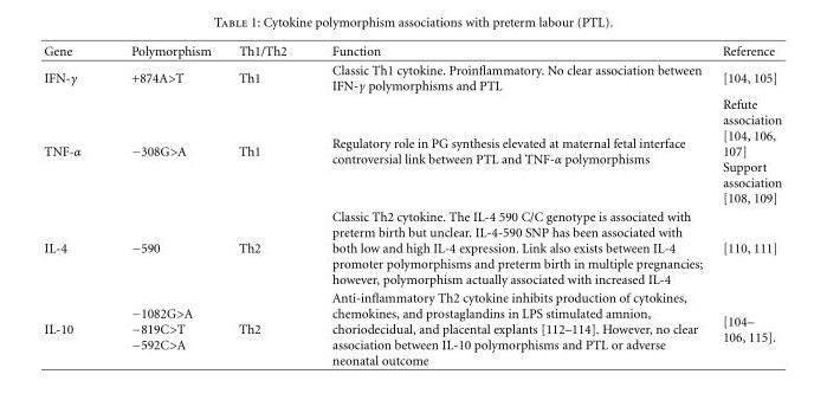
<table><thead><tr><td>Gene</td><td>Polymorphism</td><td>Th1/Th2</td><td>Function</td><td>Reference</td></tr></thead><tbody><tr><td>IFN-γ</td><td>+874A&gt;T</td><td>Th1</td><td>Classic Th1 cytokine. Proinflammatory. No clear association between IFN-γ polymorphisms and PTL</td><td>[104, 105]</td></tr><tr><td>TNF-α</td><td>−308G&gt;A</td><td>Th1</td><td>Regulatory role in PG synthesis elevated at maternal fetal interface controversial link between PTL and TNF-α polymorphisms</td><td>Refute association [104, 106, 107] Support association [108, 109]</td></tr><tr><td>IL-4</td><td>−590</td><td>Th2</td><td>Classic Th2 cytokine. The IL-4 590 C/C genotype is associated with preterm birth but unclear. IL-4-590 SNP has been associated with both low and high IL-4 expression. Link also exists between IL-4 promoter polymorphisms and preterm birth in multiple pregnancies; however, polymorphism actually associated with increased IL-4</td><td>[110, 111]</td></tr><tr><td>IL-10</td><td>−1082G&gt;A −819C&gt;T −592C&gt;A</td><td>Th2</td><td>Anti-inflammatory Th2 cytokine inhibits production of cytokines, chemokines, and prostaglandins in LPS stimulated amnion, choriodecidual, and placental explants [112–114]. However, no clear association between IL-10 polymorphisms and PTL or adverse neonatal outcome</td><td>[104– 106, 115].</td></tr></tbody></table>